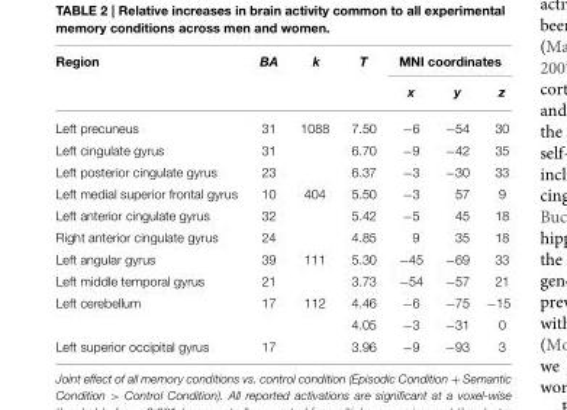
<table><thead><tr><td rowspan="2">Region</td><td rowspan="2">BA</td><td rowspan="2">k</td><td rowspan="2">T</td><td colspan="3">MNI coordinates</td></tr><tr><td>x</td><td>y</td><td>z</td></tr></thead><tbody><tr><td>Left precuneus</td><td>31</td><td>1088</td><td>7.50</td><td>−6</td><td>−54</td><td>30</td></tr><tr><td>Left cingulate gyrus</td><td>31</td><td></td><td>6.70</td><td>−9</td><td>−42</td><td>35</td></tr><tr><td>Left posterior cingulate gyrus</td><td>23</td><td></td><td>6.37</td><td>−3</td><td>−30</td><td>33</td></tr><tr><td>Left medial superior frontal gyrus</td><td>10</td><td>404</td><td>5.50</td><td>−3</td><td>57</td><td>9</td></tr><tr><td>Left anterior cingulate gyrus</td><td>32</td><td></td><td>5.42</td><td>−5</td><td>45</td><td>18</td></tr><tr><td>Right anterior cingulate gyrus</td><td>24</td><td></td><td>4.85</td><td>9</td><td>35</td><td>18</td></tr><tr><td>Left angular gyrus</td><td>39</td><td>111</td><td>5.30</td><td>−45</td><td>−69</td><td>33</td></tr><tr><td>Left middle temporal gyrus</td><td>21</td><td></td><td>3.73</td><td>−54</td><td>−57</td><td>21</td></tr><tr><td rowspan="2">Left cerebellum</td><td>17</td><td>112</td><td>4.46</td><td>−6</td><td>−75</td><td>−15</td></tr><tr><td></td><td></td><td>4.05</td><td>−3</td><td>−31</td><td>0</td></tr><tr><td>Left superior occipital gyrus</td><td>17</td><td></td><td>3.96</td><td>−9</td><td>−93</td><td>3</td></tr></tbody></table>